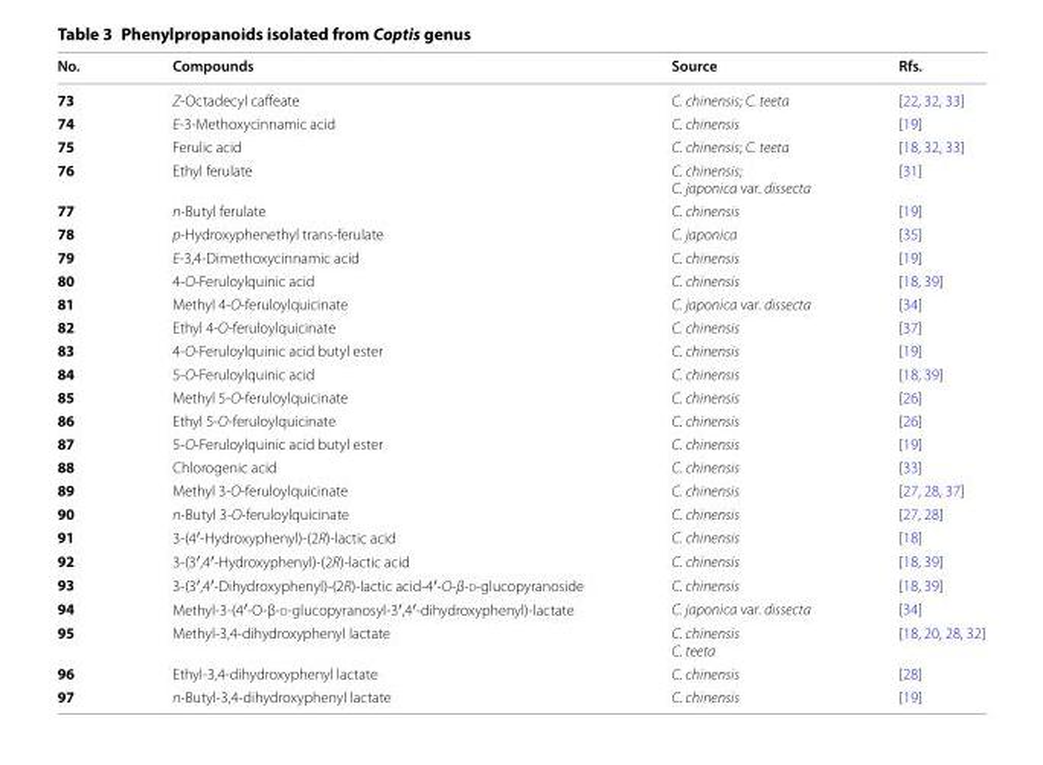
<table><thead><tr><td>No.</td><td>Compounds</td><td>Source</td><td>Rfs.</td></tr></thead><tbody><tr><td>73</td><td>Z‑Octadecyl caffeate</td><td>C. chinensis; C. teeta</td><td>[22, 32, 33]</td></tr><tr><td>74</td><td>E‑3‑Methoxycinnamic acid</td><td>C. chinensis</td><td>[19]</td></tr><tr><td>75</td><td>Ferulic acid</td><td>C. chinensis; C. teeta</td><td>[18, 32, 33]</td></tr><tr><td>76</td><td>Ethyl ferulate</td><td>C. chinensis; C. japonica var. dissecta</td><td>[31]</td></tr><tr><td>77</td><td>n‑Butyl ferulate</td><td>C. chinensis</td><td>[19]</td></tr><tr><td>78</td><td>p‑Hydroxyphenethyl trans‑ferulate</td><td>C. japonica</td><td>[35]</td></tr><tr><td>79</td><td>E‑3,4‑Dimethoxycinnamic acid</td><td>C. chinensis</td><td>[19]</td></tr><tr><td>80</td><td>4‑O‑Feruloylquinic acid</td><td>C. chinensis</td><td>[18, 39]</td></tr><tr><td>81</td><td>Methyl 4‑O‑feruloylquicinate</td><td>C. japonica var. dissecta</td><td>[34]</td></tr><tr><td>82</td><td>Ethyl 4‑O‑feruloylquicinate</td><td>C. chinensis</td><td>[37]</td></tr><tr><td>83</td><td>4‑O‑Feruloylquinic acid butyl ester</td><td>C. chinensis</td><td>[19]</td></tr><tr><td>84</td><td>5‑O‑Feruloylquinic acid</td><td>C. chinensis</td><td>[18, 39]</td></tr><tr><td>85</td><td>Methyl 5‑O‑feruloylquicinate</td><td>C. chinensis</td><td>[26]</td></tr><tr><td>86</td><td>Ethyl 5‑O‑feruloylquicinate</td><td>C. chinensis</td><td>[26]</td></tr><tr><td>87</td><td>5‑O‑Feruloylquinic acid butyl ester</td><td>C. chinensis</td><td>[19]</td></tr><tr><td>88</td><td>Chlorogenic acid</td><td>C. chinensis</td><td>[33]</td></tr><tr><td>89</td><td>Methyl 3‑O‑feruloylquicinate</td><td>C. chinensis</td><td>[27, 28, 37]</td></tr><tr><td>90</td><td>n‑Butyl 3‑O‑feruloylquicinate</td><td>C. chinensis</td><td>[27, 28]</td></tr><tr><td>91</td><td>3‑(4′‑Hydroxyphenyl)‑(2R)‑lactic acid</td><td>C. chinensis</td><td>[18]</td></tr><tr><td>92</td><td>3‑(3′,4′‑Hydroxyphenyl)‑(2R)‑lactic acid</td><td>C. chinensis</td><td>[18, 39]</td></tr><tr><td>93</td><td>3‑(3′,4′‑Dihydroxyphenyl)‑(2R)‑lactic acid‑4′‑O‑β‑d‑glucopyranoside</td><td>C. chinensis</td><td>[18, 39]</td></tr><tr><td>94</td><td>Methyl‑3‑(4′‑O‑β‑d‑glucopyranosyl‑3′,4′‑dihydroxyphenyl)‑lactate</td><td>C. japonica var. dissecta</td><td>[34]</td></tr><tr><td>95</td><td>Methyl‑3,4‑dihydroxyphenyl lactate</td><td>C. chinensis C. teeta</td><td>[18, 20, 28, 32]</td></tr><tr><td>96</td><td>Ethyl‑3,4‑dihydroxyphenyl lactate</td><td>C. chinensis</td><td>[28]</td></tr><tr><td>97</td><td>n‑Butyl‑3,4‑dihydroxyphenyl lactate</td><td>C. chinensis</td><td>[19]</td></tr></tbody></table>